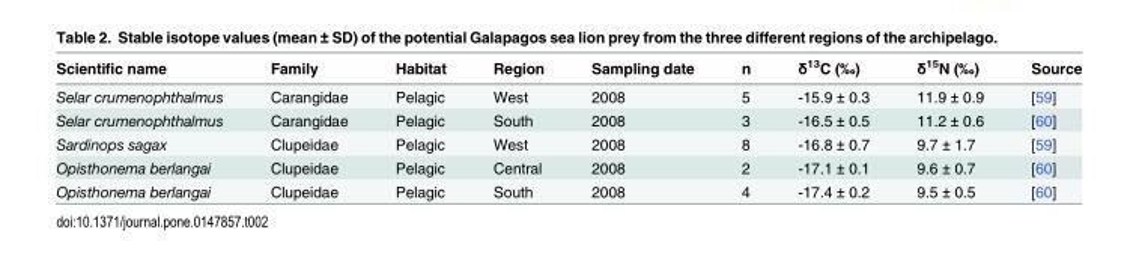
<table><thead><tr><td>Scientific name</td><td>Family</td><td>Habitat</td><td>Region</td><td>Sampling date</td><td>n</td><td>δ<sup>13</sup>C (‰)</td><td>δ<sup>15</sup>N (‰)</td><td>Source</td></tr></thead><tbody><tr><td>Selar crumenophthalmus</td><td>Carangidae</td><td>Pelagic</td><td>West</td><td>2008</td><td>5</td><td>-15.9 ± 0.3</td><td>11.9 ± 0.9</td><td>[59]</td></tr><tr><td>Selar crumenophthalmus</td><td>Carangidae</td><td>Pelagic</td><td>South</td><td>2008</td><td>3</td><td>-16.5 ± 0.5</td><td>11.2 ± 0.6</td><td>[60]</td></tr><tr><td>Sardinops sagax</td><td>Clupeidae</td><td>Pelagic</td><td>West</td><td>2008</td><td>8</td><td>-16.8 ± 0.7</td><td>9.7 ± 1.7</td><td>[59]</td></tr><tr><td>Opisthonema berlangai</td><td>Clupeidae</td><td>Pelagic</td><td>Central</td><td>2008</td><td>2</td><td>-17.1 ± 0.1</td><td>9.6 ± 0.7</td><td>[60]</td></tr><tr><td>Opisthonema berlangai</td><td>Clupeidae</td><td>Pelagic</td><td>South</td><td>2008</td><td>4</td><td>-17.4 ± 0.2</td><td>9.5 ± 0.5</td><td>[60]</td></tr></tbody></table>